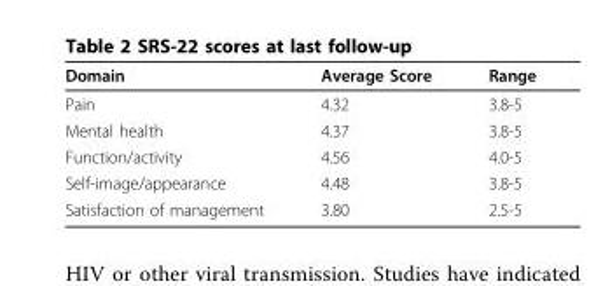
<table><thead><tr><td>Domain</td><td>Average Score</td><td>Range</td></tr></thead><tbody><tr><td>Pain</td><td>4.32</td><td>3.8-5</td></tr><tr><td>Mental health</td><td>4.37</td><td>3.8-5</td></tr><tr><td>Function/activity</td><td>4.56</td><td>4.0-5</td></tr><tr><td>Self-image/appearance</td><td>4.48</td><td>3.8-5</td></tr><tr><td>Satisfaction of management</td><td>3.80</td><td>2.5-5</td></tr></tbody></table>